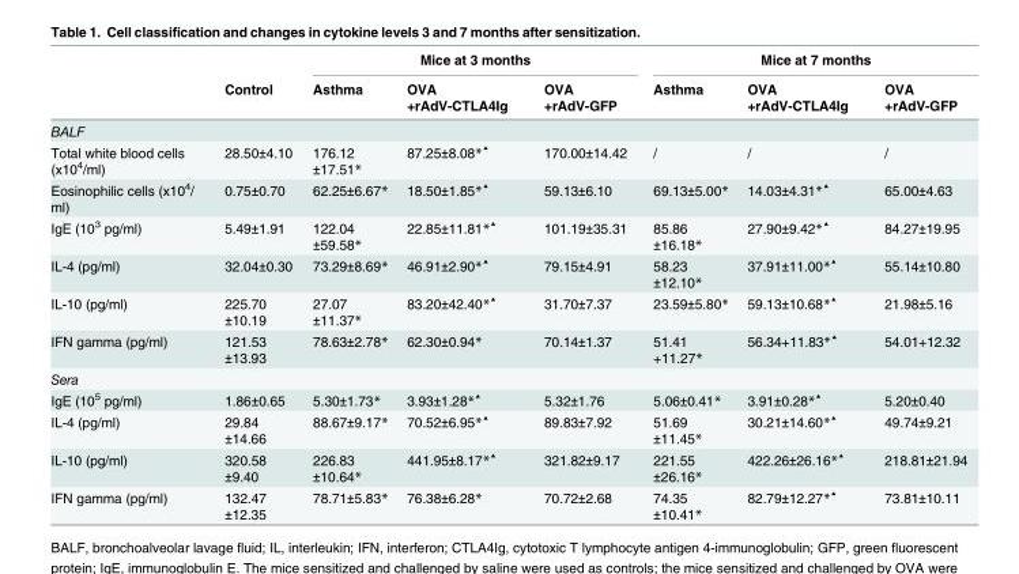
<table><thead><tr><td rowspan="2"></td><td rowspan="2">Control</td><td colspan="3">Mice at 3 months</td><td colspan="3">Mice at 7 months</td></tr><tr><td>Asthma</td><td>OVA +rAdV-CTLA4Ig</td><td>OVA +rAdV-GFP</td><td>Asthma</td><td>OVA +rAdV-CTLA4Ig</td><td>OVA +rAdV-GFP</td></tr></thead><tbody><tr><td colspan="8">BALF</td></tr><tr><td>Total white blood cells (x10<sup>4</sup>/ml)</td><td>28.50±4.10</td><td>176.12 ±17.51*</td><td>87.25±8.08*<sup>▲</sup></td><td>170.00±14.42</td><td>/</td><td>/</td><td>/</td></tr><tr><td>Eosinophilic cells (x10<sup>4</sup>/ ml)</td><td>0.75±0.70</td><td>62.25±6.67*</td><td>18.50±1.85*<sup>▲</sup></td><td>59.13±6.10</td><td>69.13±5.00*</td><td>14.03±4.31*<sup>▲</sup></td><td>65.00±4.63</td></tr><tr><td>IgE (10<sup>3</sup> pg/ml)</td><td>5.49±1.91</td><td>122.04 ±59.58*</td><td>22.85±11.81*<sup>▲</sup></td><td>101.19±35.31</td><td>85.86 ±16.18*</td><td>27.90±9.42*<sup>▲</sup></td><td>84.27±19.95</td></tr><tr><td>IL-4 (pg/ml)</td><td>32.04±0.30</td><td>73.29±8.69*</td><td>46.91±2.90*<sup>▲</sup></td><td>79.15±4.91</td><td>58.23 ±12.10*</td><td>37.91±11.00*<sup>▲</sup></td><td>55.14±10.80</td></tr><tr><td>IL-10 (pg/ml)</td><td>225.70 ±10.19</td><td>27.07 ±11.37*</td><td>83.20±42.40*<sup>▲</sup></td><td>31.70±7.37</td><td>23.59±5.80*</td><td>59.13±10.68*<sup>▲</sup></td><td>21.98±5.16</td></tr><tr><td>IFN gamma (pg/ml)</td><td>121.53 ±13.93</td><td>78.63±2.78*</td><td>62.30±0.94*</td><td>70.14±1.37</td><td>51.41 +11.27*</td><td>56.34+11.83*<sup>▲</sup></td><td>54.01+12.32</td></tr><tr><td colspan="8">Sera</td></tr><tr><td>IgE (10<sup>5</sup> pg/ml)</td><td>1.86±0.65</td><td>5.30±1.73*</td><td>3.93±1.28*<sup>▲</sup></td><td>5.32±1.76</td><td>5.06±0.41*</td><td>3.91±0.28*<sup>▲</sup></td><td>5.20±0.40</td></tr><tr><td>IL-4 (pg/ml)</td><td>29.84 ±14.66</td><td>88.67±9.17*</td><td>70.52±6.95*<sup>▲</sup></td><td>89.83±7.92</td><td>51.69 ±11.45*</td><td>30.21±14.60*<sup>▲</sup></td><td>49.74±9.21</td></tr><tr><td>IL-10 (pg/ml)</td><td>320.58 ±9.40</td><td>226.83 ±10.64*</td><td>441.95±8.17*<sup>▲</sup></td><td>321.82±9.17</td><td>221.55 ±26.16*</td><td>422.26±26.16*<sup>▲</sup></td><td>218.81±21.94</td></tr><tr><td>IFN gamma (pg/ml)</td><td>132.47 ±12.35</td><td>78.71±5.83*</td><td>76.38±6.28*</td><td>70.72±2.68</td><td>74.35 ±10.41*</td><td>82.79±12.27*<sup>▲</sup></td><td>73.81±10.11</td></tr></tbody></table>